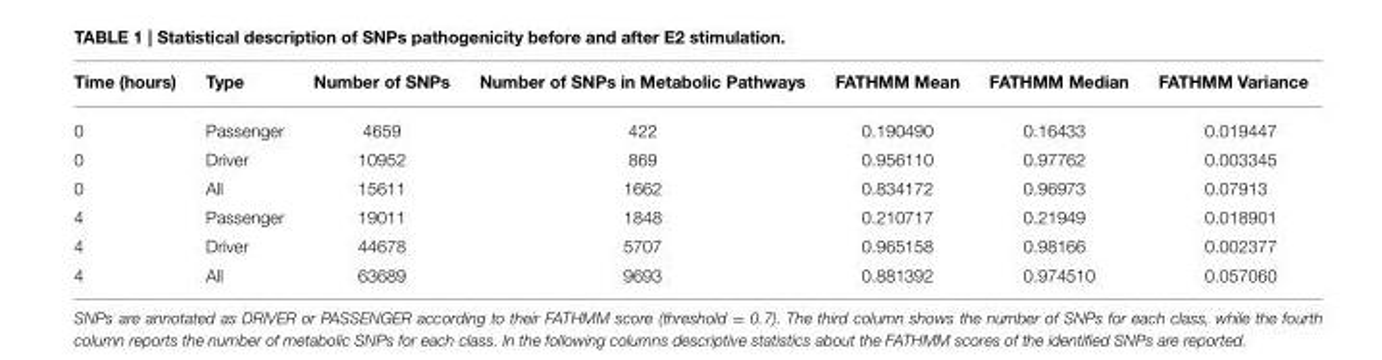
<table><thead><tr><td>Time (hours)</td><td>Type</td><td>Number of SNPs</td><td>Number of SNPs in Metabolic Pathways</td><td>FATHMM Mean</td><td>FATHMM Median</td><td>FATHMM Variance</td></tr></thead><tbody><tr><td>0</td><td>Passenger</td><td>4659</td><td>422</td><td>0.190490</td><td>0.16433</td><td>0.019447</td></tr><tr><td>0</td><td>Driver</td><td>10952</td><td>869</td><td>0.956110</td><td>0.97762</td><td>0.003345</td></tr><tr><td>0</td><td>All</td><td>15611</td><td>1662</td><td>0.834172</td><td>0.96973</td><td>0.07913</td></tr><tr><td>4</td><td>Passenger</td><td>19011</td><td>1848</td><td>0.210717</td><td>0.21949</td><td>0.018901</td></tr><tr><td>4</td><td>Driver</td><td>44678</td><td>5707</td><td>0.965158</td><td>0.98166</td><td>0.002377</td></tr><tr><td>4</td><td>All</td><td>63689</td><td>9693</td><td>0.881392</td><td>0.974510</td><td>0.057060</td></tr></tbody></table>